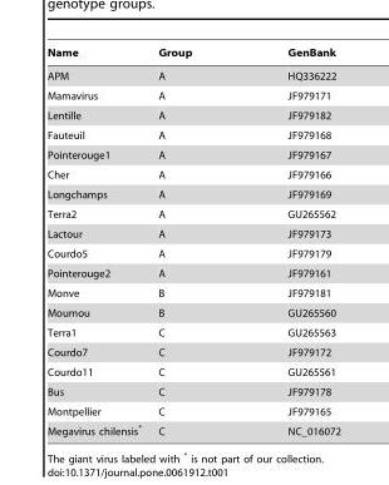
<table><thead><tr><td>Name</td><td>Group</td><td>GenBank</td></tr></thead><tbody><tr><td>APM</td><td>A</td><td>HQ336222</td></tr><tr><td>Mamavirus</td><td>A</td><td>JF979171</td></tr><tr><td>Lentille</td><td>A</td><td>JF979182</td></tr><tr><td>Fauteuil</td><td>A</td><td>JF979168</td></tr><tr><td>Pointerouge1</td><td>A</td><td>JF979167</td></tr><tr><td>Cher</td><td>A</td><td>JF979166</td></tr><tr><td>Longchamps</td><td>A</td><td>JF979169</td></tr><tr><td>Terra2</td><td>A</td><td>GU265562</td></tr><tr><td>Lactour</td><td>A</td><td>JF979173</td></tr><tr><td>Courdo5</td><td>A</td><td>JF979179</td></tr><tr><td>Pointerouge2</td><td>A</td><td>JF979161</td></tr><tr><td>Monve</td><td>B</td><td>JF979181</td></tr><tr><td>Moumou</td><td>B</td><td>GU265560</td></tr><tr><td>Terra1</td><td>C</td><td>GU265563</td></tr><tr><td>Courdo7</td><td>C</td><td>JF979172</td></tr><tr><td>Courdo11</td><td>C</td><td>GU265561</td></tr><tr><td>Bus</td><td>C</td><td>JF979178</td></tr><tr><td>Montpellier</td><td>C</td><td>JF979165</td></tr><tr><td>Megavirus chilensis*</td><td>C</td><td>NC_016072</td></tr></tbody></table>